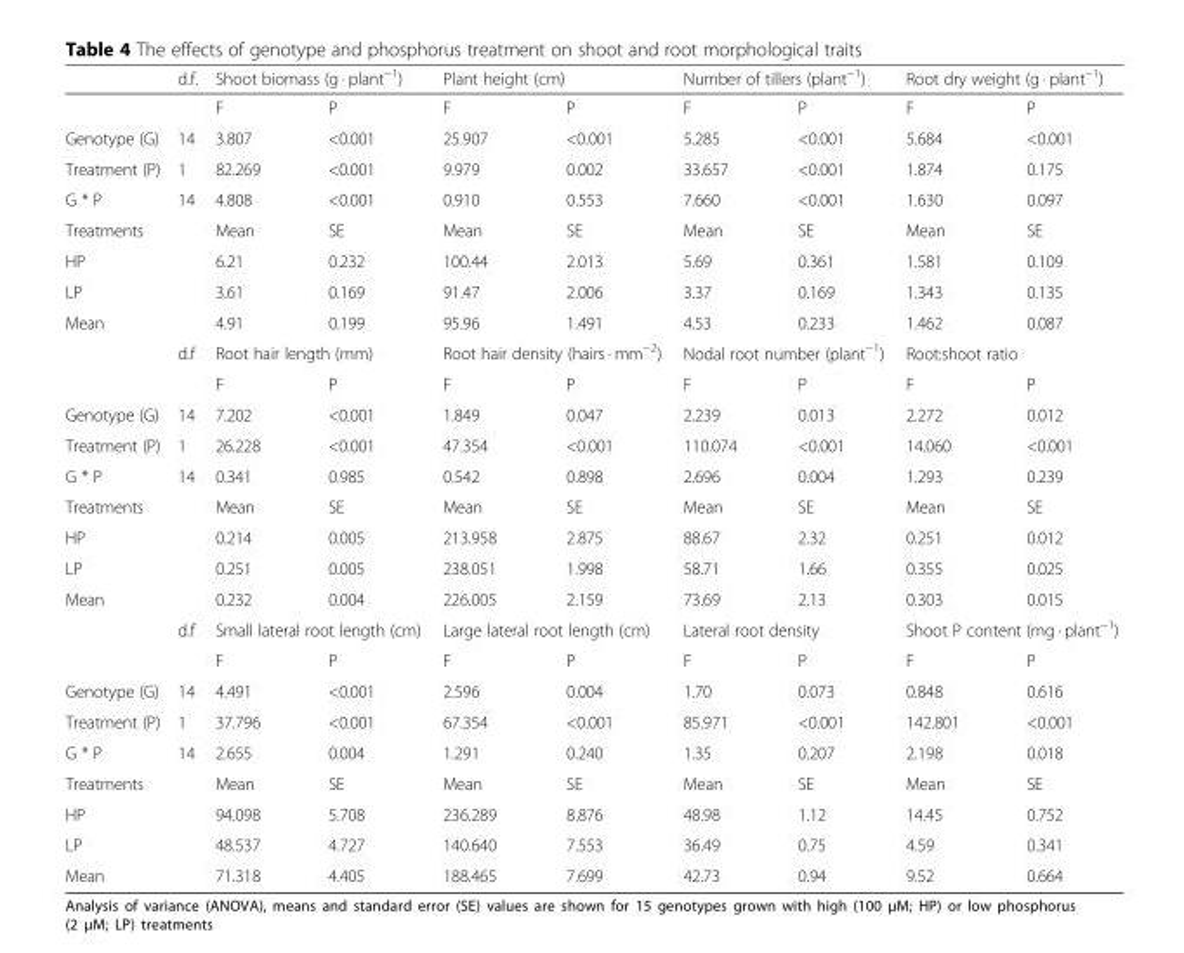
<table><thead><tr><td rowspan="2"></td><td rowspan="2">d.f.</td><td colspan="2">Shoot biomass (g · plant<sup>−1</sup>)</td><td colspan="2">Plant height (cm)</td><td colspan="2">Number of tillers (plant<sup>−1</sup>)</td><td colspan="2">Root dry weight (g · plant<sup>−1</sup>)</td></tr><tr><td>F</td><td>P</td><td>F</td><td>P</td><td>F</td><td>P</td><td>F</td><td>P</td></tr></thead><tbody><tr><td>Genotype (G)</td><td>14</td><td>3.807</td><td>&lt;0.001</td><td>25.907</td><td>&lt;0.001</td><td>5.285</td><td>&lt;0.001</td><td>5.684</td><td>&lt;0.001</td></tr><tr><td>Treatment (P)</td><td>1</td><td>82.269</td><td>&lt;0.001</td><td>9.979</td><td>0.002</td><td>33.657</td><td>&lt;0.001</td><td>1.874</td><td>0.175</td></tr><tr><td>G * P</td><td>14</td><td>4.808</td><td>&lt;0.001</td><td>0.910</td><td>0.553</td><td>7.660</td><td>&lt;0.001</td><td>1.630</td><td>0.097</td></tr><tr><td>Treatments</td><td></td><td>Mean</td><td>SE</td><td>Mean</td><td>SE</td><td>Mean</td><td>SE</td><td>Mean</td><td>SE</td></tr><tr><td>HP</td><td></td><td>6.21</td><td>0.232</td><td>100.44</td><td>2.013</td><td>5.69</td><td>0.361</td><td>1.581</td><td>0.109</td></tr><tr><td>LP</td><td></td><td>3.61</td><td>0.169</td><td>91.47</td><td>2.006</td><td>3.37</td><td>0.169</td><td>1.343</td><td>0.135</td></tr><tr><td rowspan="3">Mean</td><td></td><td>4.91</td><td>0.199</td><td>95.96</td><td>1.491</td><td>4.53</td><td>0.233</td><td>1.462</td><td>0.087</td></tr><tr><td>d.f</td><td colspan="2">Root hair length (mm)</td><td colspan="2">Root hair density (hairs · mm<sup>−2</sup>)</td><td colspan="2">Nodal root number (plant<sup>−1</sup>)</td><td colspan="2">Root:shoot ratio</td></tr><tr><td></td><td>F</td><td>P</td><td>F</td><td>P</td><td>F</td><td>P</td><td>F</td><td>P</td></tr><tr><td>Genotype (G)</td><td>14</td><td>7.202</td><td>&lt;0.001</td><td>1.849</td><td>0.047</td><td>2.239</td><td>0.013</td><td>2.272</td><td>0.012</td></tr><tr><td>Treatment (P)</td><td>1</td><td>26.228</td><td>&lt;0.001</td><td>47.354</td><td>&lt;0.001</td><td>110.074</td><td>&lt;0.001</td><td>14.060</td><td>&lt;0.001</td></tr><tr><td>G * P</td><td>14</td><td>0.341</td><td>0.985</td><td>0.542</td><td>0.898</td><td>2.696</td><td>0.004</td><td>1.293</td><td>0.239</td></tr><tr><td>Treatments</td><td></td><td>Mean</td><td>SE</td><td>Mean</td><td>SE</td><td>Mean</td><td>SE</td><td>Mean</td><td>SE</td></tr><tr><td>HP</td><td></td><td>0.214</td><td>0.005</td><td>213.958</td><td>2.875</td><td>88.67</td><td>2.32</td><td>0.251</td><td>0.012</td></tr><tr><td>LP</td><td></td><td>0.251</td><td>0.005</td><td>238.051</td><td>1.998</td><td>58.71</td><td>1.66</td><td>0.355</td><td>0.025</td></tr><tr><td rowspan="3">Mean</td><td></td><td>0.232</td><td>0.004</td><td>226.005</td><td>2.159</td><td>73.69</td><td>2.13</td><td>0.303</td><td>0.015</td></tr><tr><td>d.f</td><td colspan="2">Small lateral root length (cm)</td><td colspan="2">Large lateral root length (cm)</td><td colspan="2">Lateral root density</td><td colspan="2">Shoot P content (mg · plant<sup>−1</sup>)</td></tr><tr><td></td><td>F</td><td>P</td><td>F</td><td>P</td><td>F</td><td>P</td><td>F</td><td>P</td></tr><tr><td>Genotype (G)</td><td>14</td><td>4.491</td><td>&lt;0.001</td><td>2.596</td><td>0.004</td><td>1.70</td><td>0.073</td><td>0.848</td><td>0.616</td></tr><tr><td>Treatment (P)</td><td>1</td><td>37.796</td><td>&lt;0.001</td><td>67.354</td><td>&lt;0.001</td><td>85.971</td><td>&lt;0.001</td><td>142.801</td><td>&lt;0.001</td></tr><tr><td>G * P</td><td>14</td><td>2.655</td><td>0.004</td><td>1.291</td><td>0.240</td><td>1.35</td><td>0.207</td><td>2.198</td><td>0.018</td></tr><tr><td>Treatments</td><td></td><td>Mean</td><td>SE</td><td>Mean</td><td>SE</td><td>Mean</td><td>SE</td><td>Mean</td><td>SE</td></tr><tr><td>HP</td><td></td><td>94.098</td><td>5.708</td><td>236.289</td><td>8.876</td><td>48.98</td><td>1.12</td><td>14.45</td><td>0.752</td></tr><tr><td>LP</td><td></td><td>48.537</td><td>4.727</td><td>140.640</td><td>7.553</td><td>36.49</td><td>0.75</td><td>4.59</td><td>0.341</td></tr><tr><td>Mean</td><td></td><td>71.318</td><td>4.405</td><td>188.465</td><td>7.699</td><td>42.73</td><td>0.94</td><td>9.52</td><td>0.664</td></tr></tbody></table>